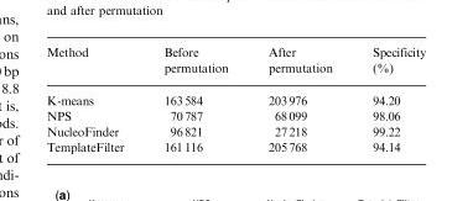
<table><thead><tr><td>Method</td><td>Before permutation</td><td>After permutation</td><td>Specificity (%)</td></tr></thead><tbody><tr><td>K-means</td><td>163 584</td><td>203976</td><td>94.20</td></tr><tr><td>NPS</td><td>70 787</td><td>68099</td><td>98.06</td></tr><tr><td>NucleoFinder</td><td>96 821</td><td>27218</td><td>99.22</td></tr><tr><td>TemplateFilter</td><td>161 116</td><td>205768</td><td>94.14</td></tr></tbody></table>